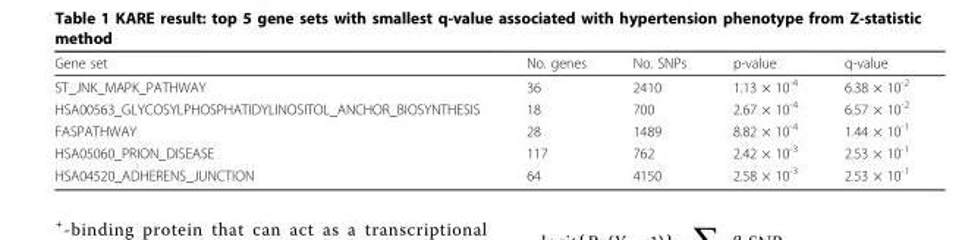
<table><thead><tr><td>Gene set</td><td>No. genes</td><td>No. SNPs</td><td>p-value</td><td>q-value</td></tr></thead><tbody><tr><td>ST_JNK_MAPK_PATHWAY</td><td>36</td><td>2410</td><td>1.13 × 10<sup>-4</sup></td><td>6.38 × 10<sup>-2</sup></td></tr><tr><td>HSA00563_GLYCOSYLPHOSPHATIDYLINOSITOL_ANCHOR_BIOSYNTHESIS</td><td>18</td><td>700</td><td>2.67 × 10<sup>-4</sup></td><td>6.57 × 10<sup>-2</sup></td></tr><tr><td>FASPATHWAY</td><td>28</td><td>1489</td><td>8.82 × 10<sup>-4</sup></td><td>1.44 × 10<sup>-1</sup></td></tr><tr><td>HSA05060_PRION_DISEASE</td><td>117</td><td>762</td><td>2.42 × 10<sup>-3</sup></td><td>2.53 × 10<sup>-1</sup></td></tr><tr><td>HSA04520_ADHERENS_JUNCTION</td><td>64</td><td>4150</td><td>2.58 × 10<sup>-3</sup></td><td>2.53 × 10<sup>-1</sup></td></tr></tbody></table>